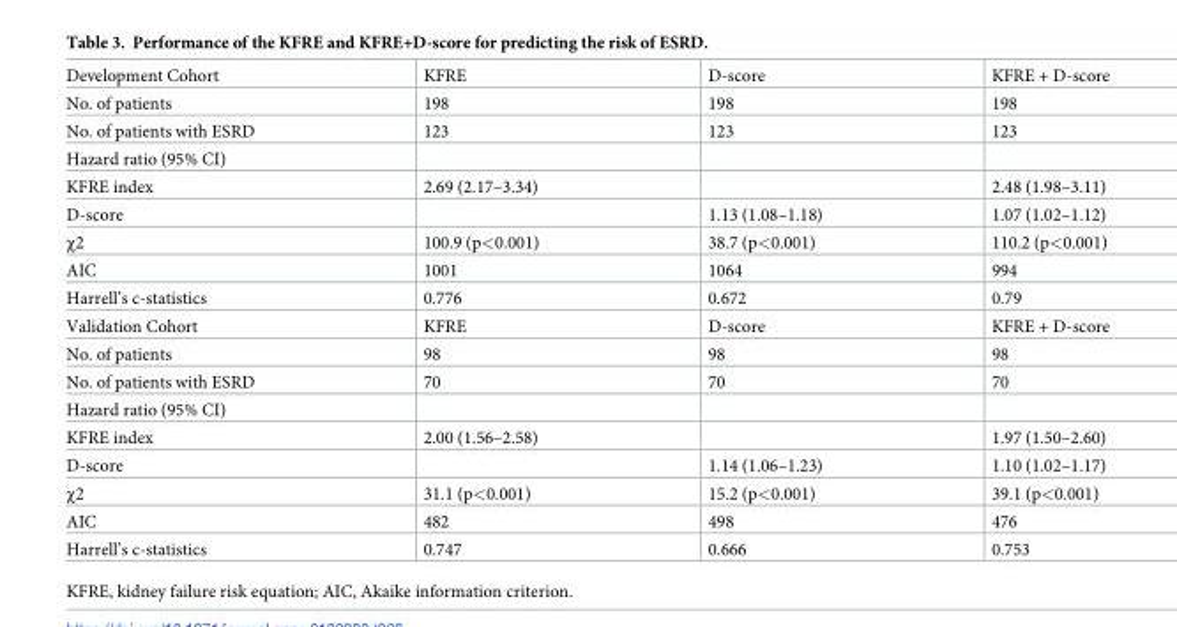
<table><tbody><tr><td>Development Cohort</td><td>KFRE</td><td>D-score</td><td>KFRE + D-score</td></tr><tr><td>No. of patients</td><td>198</td><td>198</td><td>198</td></tr><tr><td>No. of patients with ESRD</td><td>123</td><td>123</td><td>123</td></tr><tr><td colspan="4">Hazard ratio (95% CI)</td></tr><tr><td>KFRE index</td><td>2.69 (2.17–3.34)</td><td></td><td>2.48 (1.98–3.11)</td></tr><tr><td>D-score</td><td></td><td>1.13 (1.08–1.18)</td><td>1.07 (1.02–1.12)</td></tr><tr><td>χ2</td><td>100.9 (p&lt;0.001)</td><td>38.7 (p&lt;0.001)</td><td>110.2 (p&lt;0.001)</td></tr><tr><td>AIC</td><td>1001</td><td>1064</td><td>994</td></tr><tr><td>Harrell’s c-statistics</td><td>0.776</td><td>0.672</td><td>0.79</td></tr><tr><td>Validation Cohort</td><td>KFRE</td><td>D-score</td><td>KFRE + D-score</td></tr><tr><td>No. of patients</td><td>98</td><td>98</td><td>98</td></tr><tr><td>No. of patients with ESRD</td><td>70</td><td>70</td><td>70</td></tr><tr><td colspan="4">Hazard ratio (95% CI)</td></tr><tr><td>KFRE index</td><td>2.00 (1.56–2.58)</td><td></td><td>1.97 (1.50–2.60)</td></tr><tr><td>D-score</td><td></td><td>1.14 (1.06–1.23)</td><td>1.10 (1.02–1.17)</td></tr><tr><td>χ2</td><td>31.1 (p&lt;0.001)</td><td>15.2 (p&lt;0.001)</td><td>39.1 (p&lt;0.001)</td></tr><tr><td>AIC</td><td>482</td><td>498</td><td>476</td></tr><tr><td>Harrell’s c-statistics</td><td>0.747</td><td>0.666</td><td>0.753</td></tr></tbody></table>